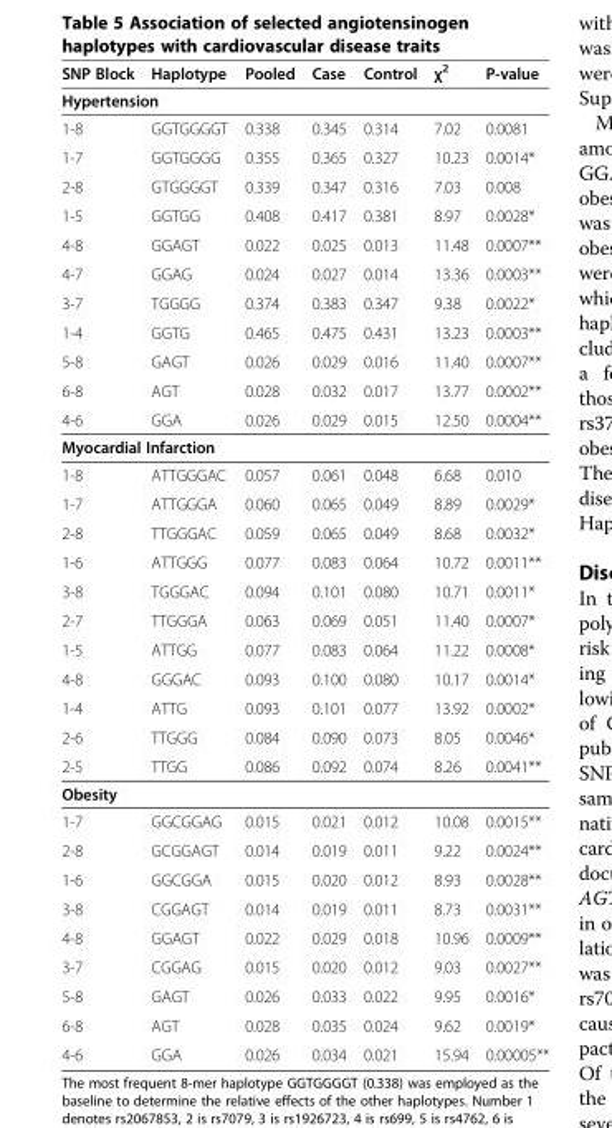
<table><thead><tr><td>SNP Block</td><td>Haplotype</td><td>Pooled</td><td>Case</td><td>Control</td><td>χ<sup>2</sup></td><td>P-value</td></tr></thead><tbody><tr><td colspan="7">Hypertension</td></tr><tr><td>1-8</td><td>GGTGGGGT</td><td>0.338</td><td>0.345</td><td>0.314</td><td>7.02</td><td>0.0081</td></tr><tr><td>1-7</td><td>GGTGGGG</td><td>0.355</td><td>0.365</td><td>0.327</td><td>10.23</td><td>0.0014*</td></tr><tr><td>2-8</td><td>GTGGGGT</td><td>0.339</td><td>0.347</td><td>0.316</td><td>7.03</td><td>0.008</td></tr><tr><td>1-5</td><td>GGTGG</td><td>0.408</td><td>0.417</td><td>0.381</td><td>8.97</td><td>0.0028*</td></tr><tr><td>4-8</td><td>GGAGT</td><td>0.022</td><td>0.025</td><td>0.013</td><td>11.48</td><td>0.0007**</td></tr><tr><td>4-7</td><td>GGAG</td><td>0.024</td><td>0.027</td><td>0.014</td><td>13.36</td><td>0.0003**</td></tr><tr><td>3-7</td><td>TGGGG</td><td>0.374</td><td>0.383</td><td>0.347</td><td>9.38</td><td>0.0022*</td></tr><tr><td>1-4</td><td>GGTG</td><td>0.465</td><td>0.475</td><td>0.431</td><td>13.23</td><td>0.0003**</td></tr><tr><td>5-8</td><td>GAGT</td><td>0.026</td><td>0.029</td><td>0.016</td><td>11.40</td><td>0.0007**</td></tr><tr><td>6-8</td><td>AGT</td><td>0.028</td><td>0.032</td><td>0.017</td><td>13.77</td><td>0.0002**</td></tr><tr><td>4-6</td><td>GGA</td><td>0.026</td><td>0.029</td><td>0.015</td><td>12.50</td><td>0.0004**</td></tr><tr><td colspan="7">Myocardial Infarction</td></tr><tr><td>1-8</td><td>ATTGGGAC</td><td>0.057</td><td>0.061</td><td>0.048</td><td>6.68</td><td>0.010</td></tr><tr><td>1-7</td><td>ATTGGGA</td><td>0.060</td><td>0.065</td><td>0.049</td><td>8.89</td><td>0.0029*</td></tr><tr><td>2-8</td><td>TTGGGAC</td><td>0.059</td><td>0.065</td><td>0.049</td><td>8.68</td><td>0.0032*</td></tr><tr><td>1-6</td><td>ATTGGG</td><td>0.077</td><td>0.083</td><td>0.064</td><td>10.72</td><td>0.0011**</td></tr><tr><td>3-8</td><td>TGGGAC</td><td>0.094</td><td>0.101</td><td>0.080</td><td>10.71</td><td>0.0011*</td></tr><tr><td>2-7</td><td>TTGGGA</td><td>0.063</td><td>0.069</td><td>0.051</td><td>11.40</td><td>0.0007*</td></tr><tr><td>1-5</td><td>ATTGG</td><td>0.077</td><td>0.083</td><td>0.064</td><td>11.22</td><td>0.0008*</td></tr><tr><td>4-8</td><td>GGGAC</td><td>0.093</td><td>0.100</td><td>0.080</td><td>10.17</td><td>0.0014*</td></tr><tr><td>1-4</td><td>ATTG</td><td>0.093</td><td>0.101</td><td>0.077</td><td>13.92</td><td>0.0002*</td></tr><tr><td>2-6</td><td>TTGGG</td><td>0.084</td><td>0.090</td><td>0.073</td><td>8.05</td><td>0.0046*</td></tr><tr><td>2-5</td><td>TTGG</td><td>0.086</td><td>0.092</td><td>0.074</td><td>8.26</td><td>0.0041**</td></tr><tr><td colspan="7">Obesity</td></tr><tr><td>1-7</td><td>GGCGGAG</td><td>0.015</td><td>0.021</td><td>0.012</td><td>10.08</td><td>0.0015**</td></tr><tr><td>2-8</td><td>GCGGAGT</td><td>0.014</td><td>0.019</td><td>0.011</td><td>9.22</td><td>0.0024**</td></tr><tr><td>1-6</td><td>GGCGGA</td><td>0.015</td><td>0.020</td><td>0.012</td><td>8.93</td><td>0.0028**</td></tr><tr><td>3-8</td><td>CGGAGT</td><td>0.014</td><td>0.019</td><td>0.011</td><td>8.73</td><td>0.0031**</td></tr><tr><td>4-8</td><td>GGAGT</td><td>0.022</td><td>0.029</td><td>0.018</td><td>10.96</td><td>0.0009**</td></tr><tr><td>3-7</td><td>CGGAG</td><td>0.015</td><td>0.020</td><td>0.012</td><td>9.03</td><td>0.0027**</td></tr><tr><td>5-8</td><td>GAGT</td><td>0.026</td><td>0.033</td><td>0.022</td><td>9.95</td><td>0.0016*</td></tr><tr><td>6-8</td><td>AGT</td><td>0.028</td><td>0.035</td><td>0.024</td><td>9.62</td><td>0.0019*</td></tr><tr><td>4-6</td><td>GGA</td><td>0.026</td><td>0.034</td><td>0.021</td><td>15.94</td><td>0.00005**</td></tr></tbody></table>